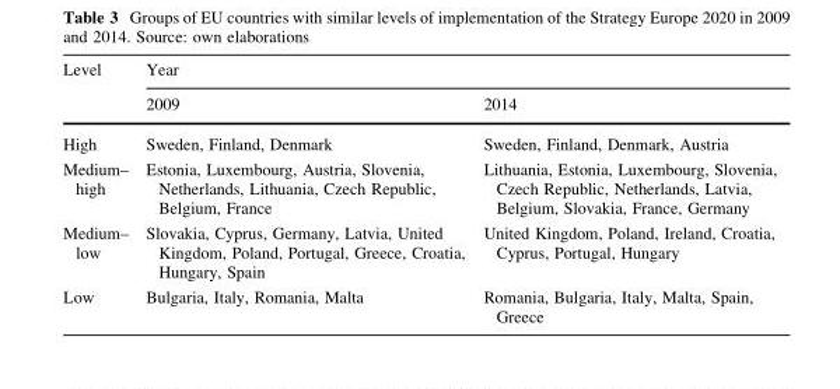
<table><thead><tr><td rowspan="2">Level</td><td colspan="2">Year</td></tr><tr><td>2009</td><td>2014</td></tr></thead><tbody><tr><td>High</td><td>Sweden, Finland, Denmark</td><td>Sweden, Finland, Denmark, Austria</td></tr><tr><td>Medium– high</td><td>Estonia, Luxembourg, Austria, Slovenia, Netherlands, Lithuania, Czech Republic, Belgium, France</td><td>Lithuania, Estonia, Luxembourg, Slovenia, Czech Republic, Netherlands, Latvia, Belgium, Slovakia, France, Germany</td></tr><tr><td>Medium– low</td><td>Slovakia, Cyprus, Germany, Latvia, United Kingdom, Poland, Portugal, Greece, Croatia, Hungary, Spain</td><td>United Kingdom, Poland, Ireland, Croatia, Cyprus, Portugal, Hungary</td></tr><tr><td>Low</td><td>Bulgaria, Italy, Romania, Malta</td><td>Romania, Bulgaria, Italy, Malta, Spain, Greece</td></tr></tbody></table>